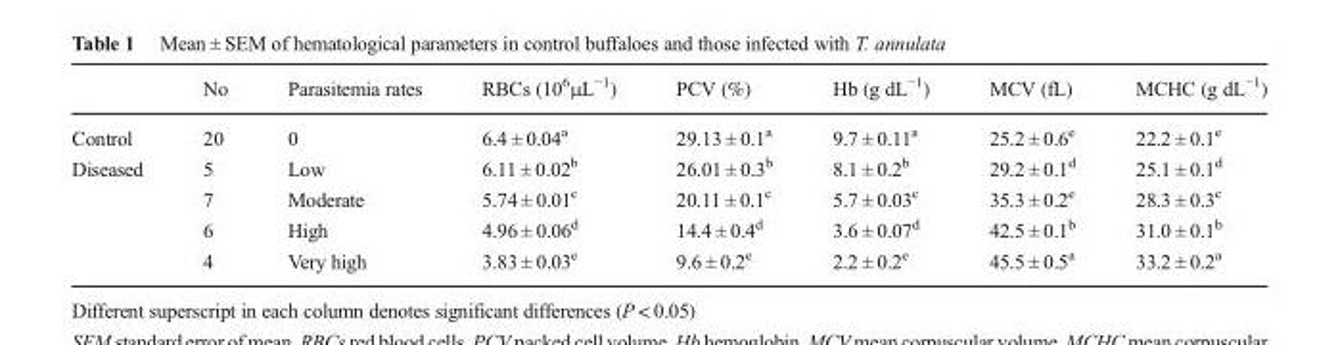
<table><thead><tr><td></td><td>No</td><td>Parasitemia rates</td><td>RBCs (10<sup>6</sup>μL<sup>−1</sup>)</td><td>PCV (%)</td><td>Hb (g dL<sup>−1</sup>)</td><td>MCV (fL)</td><td>MCHC (g dL<sup>−1</sup>)</td></tr></thead><tbody><tr><td>Control</td><td>20</td><td>0</td><td>6.4 ± 0.04<sup>a</sup></td><td>29.13 ± 0.1<sup>a</sup></td><td>9.7 ± 0.11<sup>a</sup></td><td>25.2 ± 0.6<sup>e</sup></td><td>22.2 ± 0.1<sup>e</sup></td></tr><tr><td rowspan="4">Diseased</td><td>5</td><td>Low</td><td>6.11 ± 0.02<sup>b</sup></td><td>26.01 ± 0.3<sup>b</sup></td><td>8.1 ± 0.2<sup>b</sup></td><td>29.2 ± 0.1<sup>d</sup></td><td>25.1 ± 0.1<sup>d</sup></td></tr><tr><td>7</td><td>Moderate</td><td>5.74 ± 0.01<sup>c</sup></td><td>20.11 ± 0.1<sup>c</sup></td><td>5.7 ± 0.03<sup>c</sup></td><td>35.3 ± 0.2<sup>e</sup></td><td>28.3 ± 0.3<sup>c</sup></td></tr><tr><td>6</td><td>High</td><td>4.96 ± 0.06<sup>d</sup></td><td>14.4 ± 0.4<sup>d</sup></td><td>3.6 ± 0.07<sup>d</sup></td><td>42.5 ± 0.1<sup>b</sup></td><td>31.0 ± 0.1<sup>b</sup></td></tr><tr><td>4</td><td>Very high</td><td>3.83 ± 0.03<sup>e</sup></td><td>9.6 ± 0.2<sup>e</sup></td><td>2.2 ± 0.2<sup>e</sup></td><td>45.5 ± 0.5<sup>a</sup></td><td>33.2 ± 0.2<sup>a</sup></td></tr></tbody></table>